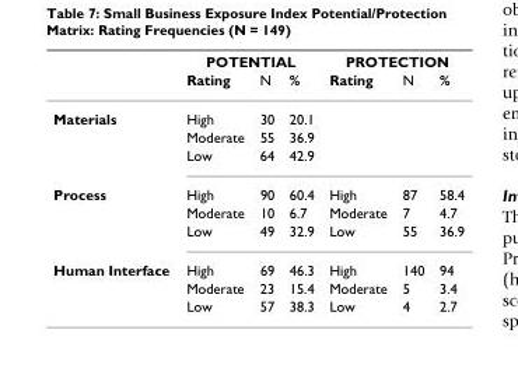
<table><thead><tr><td rowspan="2"></td><td colspan="3">POTENTIAL</td><td colspan="3">PROTECTION</td></tr><tr><td>Rating</td><td>N</td><td>%</td><td>Rating</td><td>N</td><td>%</td></tr></thead><tbody><tr><td rowspan="3">Materials</td><td>High</td><td>30</td><td>20.1</td><td></td><td></td><td></td></tr><tr><td>Moderate</td><td>55</td><td>36.9</td><td></td><td></td><td></td></tr><tr><td>Low</td><td>64</td><td>42.9</td><td></td><td></td><td></td></tr><tr><td rowspan="3">Process</td><td>High</td><td>90</td><td>60.4</td><td>High</td><td>87</td><td>58.4</td></tr><tr><td>Moderate</td><td>10</td><td>6.7</td><td>Moderate</td><td>7</td><td>4.7</td></tr><tr><td>Low</td><td>49</td><td>32.9</td><td>Low</td><td>55</td><td>36.9</td></tr><tr><td rowspan="3">Human Interface</td><td>High</td><td>69</td><td>46.3</td><td>High</td><td>140</td><td>94</td></tr><tr><td>Moderate</td><td>23</td><td>15.4</td><td>Moderate</td><td>5</td><td>3.4</td></tr><tr><td>Low</td><td>57</td><td>38.3</td><td>Low</td><td>4</td><td>2.7</td></tr></tbody></table>